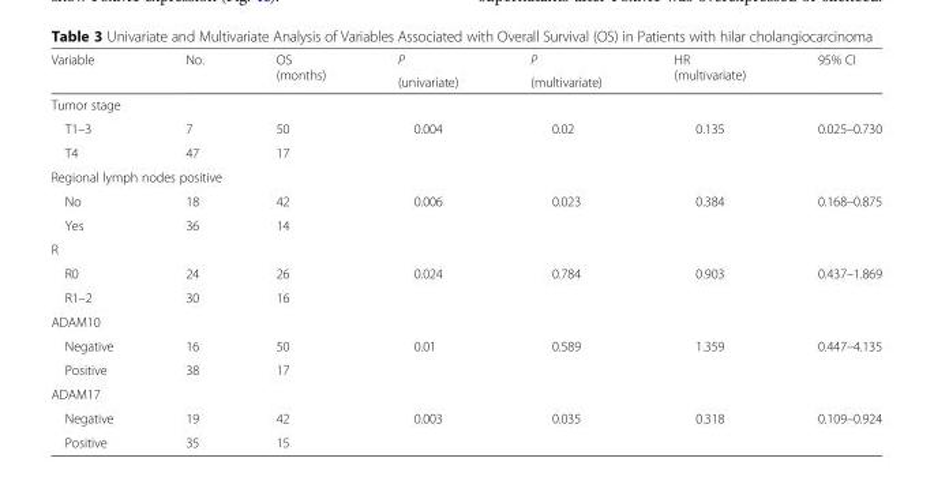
<table><thead><tr><td rowspan="2">Variable</td><td rowspan="2">No.</td><td rowspan="2">OS (months)</td><td rowspan="2">P (univariate)</td><td rowspan="2">P (multivariate)</td><td rowspan="2">HR (multivariate)</td><td rowspan="2">95% CI</td></tr><tr></tr></thead><tbody><tr><td colspan="7">Tumor stage</td></tr><tr><td>T1–3</td><td>7</td><td>50</td><td>0.004</td><td>0.02</td><td>0.135</td><td>0.025–0.730</td></tr><tr><td>T4</td><td>47</td><td>17</td><td></td><td></td><td></td><td></td></tr><tr><td colspan="7">Regional lymph nodes positive</td></tr><tr><td>No</td><td>18</td><td>42</td><td>0.006</td><td>0.023</td><td>0.384</td><td>0.168–0.875</td></tr><tr><td>Yes</td><td>36</td><td>14</td><td></td><td></td><td></td><td></td></tr><tr><td colspan="7">R</td></tr><tr><td>R0</td><td>24</td><td>26</td><td>0.024</td><td>0.784</td><td>0.903</td><td>0.437–1.869</td></tr><tr><td>R1–2</td><td>30</td><td>16</td><td></td><td></td><td></td><td></td></tr><tr><td colspan="7">ADAM10</td></tr><tr><td>Negative</td><td>16</td><td>50</td><td>0.01</td><td>0.589</td><td>1.359</td><td>0.447–4.135</td></tr><tr><td>Positive</td><td>38</td><td>17</td><td></td><td></td><td></td><td></td></tr><tr><td colspan="7">ADAM17</td></tr><tr><td>Negative</td><td>19</td><td>42</td><td>0.003</td><td>0.035</td><td>0.318</td><td>0.109–0.924</td></tr><tr><td>Positive</td><td>35</td><td>15</td><td></td><td></td><td></td><td></td></tr></tbody></table>